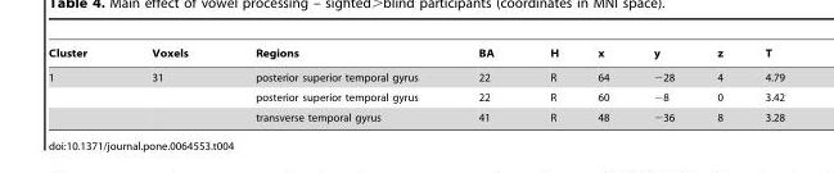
<table><thead><tr><td>Cluster</td><td>Voxels</td><td>Regions</td><td>BA</td><td>H</td><td>x</td><td>y</td><td>z</td><td>T</td></tr></thead><tbody><tr><td rowspan="3">1</td><td>31</td><td>posterior superior temporal gyrus</td><td>22</td><td>R</td><td>64</td><td>−28</td><td>4</td><td>4.79</td></tr><tr><td></td><td>posterior superior temporal gyrus</td><td>22</td><td>R</td><td>60</td><td>−8</td><td>0</td><td>3.42</td></tr><tr><td></td><td>transverse temporal gyrus</td><td>41</td><td>R</td><td>48</td><td>−36</td><td>8</td><td>3.28</td></tr></tbody></table>